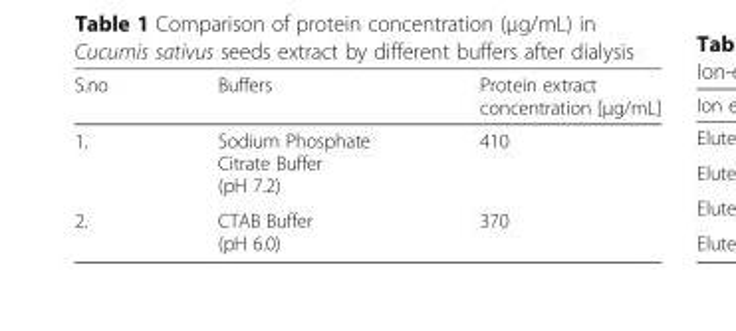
<table><thead><tr><td>S.no</td><td>Buffers</td><td>Protein extract concentration [μg/mL]</td></tr></thead><tbody><tr><td>1.</td><td>Sodium Phosphate Citrate Buffer (pH 7.2)</td><td>410</td></tr><tr><td>2.</td><td>CTAB Buffer (pH 6.0)</td><td>370</td></tr></tbody></table>